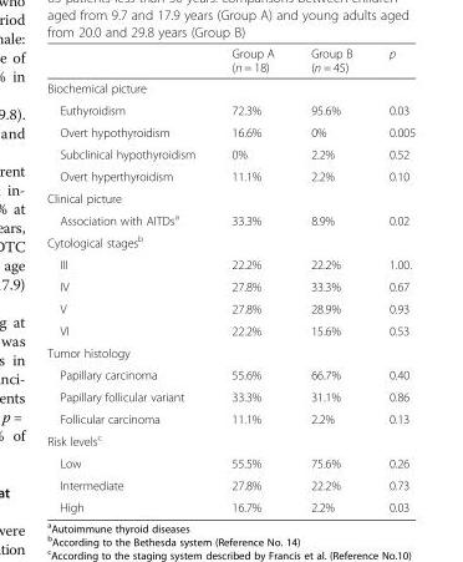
<table><thead><tr><td></td><td>Group A (n = 18)</td><td>Group B (n = 45)</td><td>p</td></tr></thead><tbody><tr><td colspan="4">Biochemical picture</td></tr><tr><td>Euthyroidism</td><td>72.3%</td><td>95.6%</td><td>0.03</td></tr><tr><td>Overt hypothyroidism</td><td>16.6%</td><td>0%</td><td>0.005</td></tr><tr><td>Subclinical hypothyroidism</td><td>0%</td><td>2.2%</td><td>0.52</td></tr><tr><td>Overt hyperthyroidism</td><td>11.1%</td><td>2.2%</td><td>0.10</td></tr><tr><td colspan="4">Clinical picture</td></tr><tr><td>Association with AITDs<sup>a</sup></td><td>33.3%</td><td>8.9%</td><td>0.02</td></tr><tr><td colspan="4">Cytological stages<sup>b</sup></td></tr><tr><td>III</td><td>22.2%</td><td>22.2%</td><td>1.00.</td></tr><tr><td>IV</td><td>27.8%</td><td>33.3%</td><td>0.67</td></tr><tr><td>V</td><td>27.8%</td><td>28.9%</td><td>0.93</td></tr><tr><td>VI</td><td>22.2%</td><td>15.6%</td><td>0.53</td></tr><tr><td colspan="4">Tumor histology</td></tr><tr><td>Papillary carcinoma</td><td>55.6%</td><td>66.7%</td><td>0.40</td></tr><tr><td>Papillary follicular variant</td><td>33.3%</td><td>31.1%</td><td>0.86</td></tr><tr><td>Follicular carcinoma</td><td>11.1%</td><td>2.2%</td><td>0.13</td></tr><tr><td colspan="4">Risk levels<sup>c</sup></td></tr><tr><td>Low</td><td>55.5%</td><td>75.6%</td><td>0.26</td></tr><tr><td>Intermediate</td><td>27.8%</td><td>22.2%</td><td>0.73</td></tr><tr><td>High</td><td>16.7%</td><td>2.2%</td><td>0.03</td></tr></tbody></table>